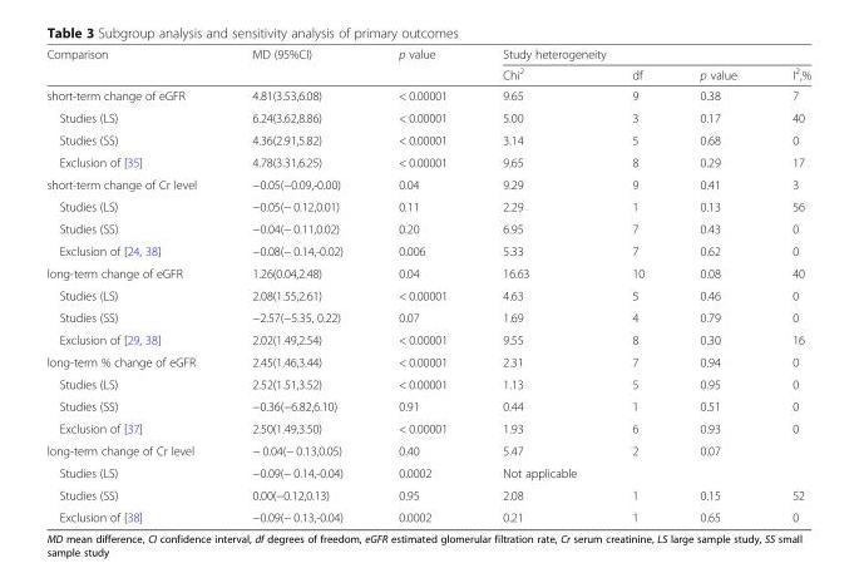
<table><thead><tr><td rowspan="2">Comparison</td><td rowspan="2">MD (95%CI)</td><td rowspan="2">p value</td><td colspan="4">Study heterogeneity</td></tr><tr><td>Chi<sup>2</sup></td><td>df</td><td>p value</td><td>I<sup>2</sup>,%</td></tr></thead><tbody><tr><td>short-term change of eGFR</td><td>4.81(3.53,6.08)</td><td>&lt; 0.00001</td><td>9.65</td><td>9</td><td>0.38</td><td>7</td></tr><tr><td>Studies (LS)</td><td>6.24(3.62,8.86)</td><td>&lt; 0.00001</td><td>5.00</td><td>3</td><td>0.17</td><td>40</td></tr><tr><td>Studies (SS)</td><td>4.36(2.91,5.82)</td><td>&lt; 0.00001</td><td>3.14</td><td>5</td><td>0.68</td><td>0</td></tr><tr><td>Exclusion of [35]</td><td>4.78(3.31,6.25)</td><td>&lt; 0.00001</td><td>9.65</td><td>8</td><td>0.29</td><td>17</td></tr><tr><td>short-term change of Cr level</td><td>−0.05(−0.09,-0.00)</td><td>0.04</td><td>9.29</td><td>9</td><td>0.41</td><td>3</td></tr><tr><td>Studies (LS)</td><td>−0.05(− 0.12,0.01)</td><td>0.11</td><td>2.29</td><td>1</td><td>0.13</td><td>56</td></tr><tr><td>Studies (SS)</td><td>−0.04(− 0.11,0.02)</td><td>0.20</td><td>6.95</td><td>7</td><td>0.43</td><td>0</td></tr><tr><td>Exclusion of [24, 38]</td><td>−0.08(− 0.14,-0.02)</td><td>0.006</td><td>5.33</td><td>7</td><td>0.62</td><td>0</td></tr><tr><td>long-term change of eGFR</td><td>1.26(0.04,2.48)</td><td>0.04</td><td>16.63</td><td>10</td><td>0.08</td><td>40</td></tr><tr><td>Studies (LS)</td><td>2.08(1.55,2.61)</td><td>&lt; 0.00001</td><td>4.63</td><td>5</td><td>0.46</td><td>0</td></tr><tr><td>Studies (SS)</td><td>−2.57(−5.35, 0.22)</td><td>0.07</td><td>1.69</td><td>4</td><td>0.79</td><td>0</td></tr><tr><td>Exclusion of [29, 38]</td><td>2.02(1.49,2.54)</td><td>&lt; 0.00001</td><td>9.55</td><td>8</td><td>0.30</td><td>16</td></tr><tr><td>long-term % change of eGFR</td><td>2.45(1.46,3.44)</td><td>&lt; 0.00001</td><td>2.31</td><td>7</td><td>0.94</td><td>0</td></tr><tr><td>Studies (LS)</td><td>2.52(1.51,3.52)</td><td>&lt; 0.00001</td><td>1.13</td><td>5</td><td>0.95</td><td>0</td></tr><tr><td>Studies (SS)</td><td>−0.36(−6.82,6.10)</td><td>0.91</td><td>0.44</td><td>1</td><td>0.51</td><td>0</td></tr><tr><td>Exclusion of [37]</td><td>2.50(1.49,3.50)</td><td>&lt; 0.00001</td><td>1.93</td><td>6</td><td>0.93</td><td>0</td></tr><tr><td>long-term change of Cr level</td><td>− 0.04(− 0.13,0.05)</td><td>0.40</td><td>5.47</td><td>2</td><td>0.07</td><td></td></tr><tr><td>Studies (LS)</td><td>−0.09(− 0.14,-0.04)</td><td>0.0002</td><td>Not applicable</td><td></td><td></td><td></td></tr><tr><td>Studies (SS)</td><td>0.00(−0.12,0.13)</td><td>0.95</td><td>2.08</td><td>1</td><td>0.15</td><td>52</td></tr><tr><td>Exclusion of [38]</td><td>−0.09(− 0.13,-0.04)</td><td>0.0002</td><td>0.21</td><td>1</td><td>0.65</td><td>0</td></tr></tbody></table>